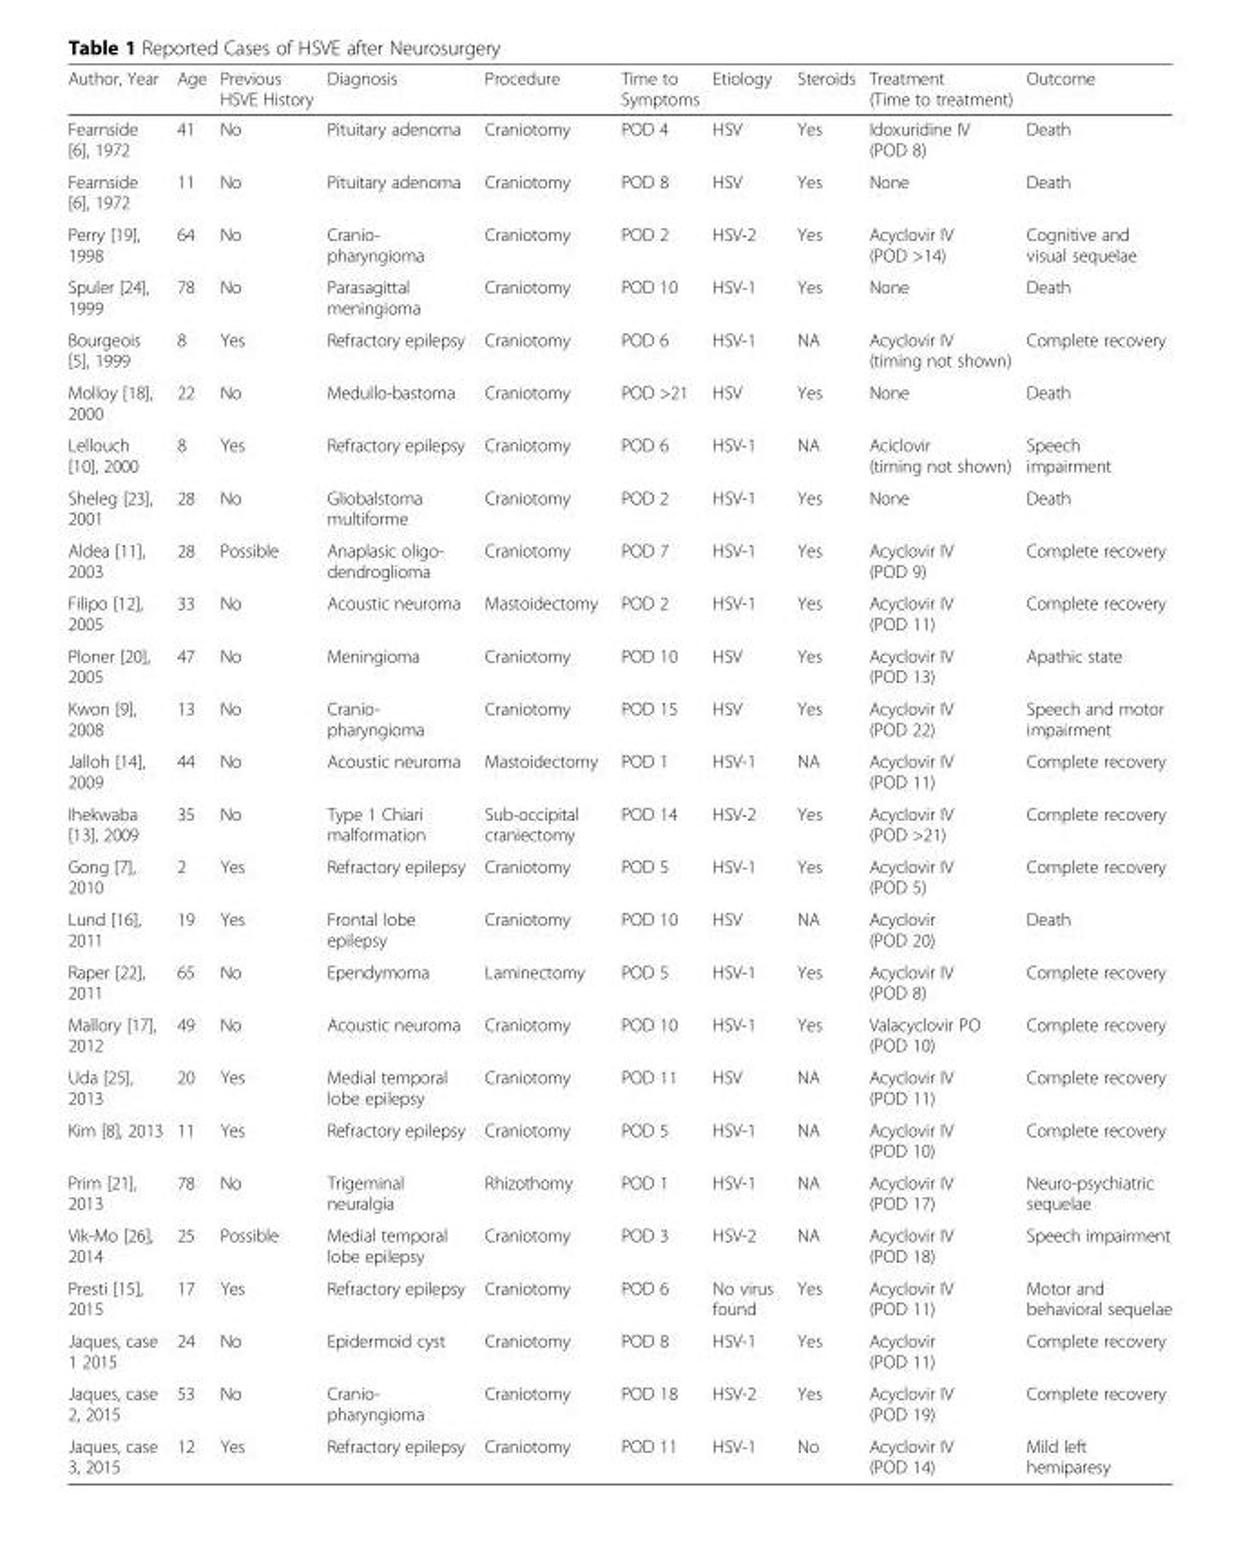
<table><thead><tr><td>Author, Year</td><td>Age</td><td>Previous HSVE History</td><td>Diagnosis</td><td>Procedure</td><td>Time to Symptoms</td><td>Etiology</td><td>Steroids</td><td>Treatment (Time to treatment)</td><td>Outcome</td></tr></thead><tbody><tr><td>Fearnside [6], 1972</td><td>41</td><td>No</td><td>Pituitary adenoma</td><td>Craniotomy</td><td>POD 4</td><td>HSV</td><td>Yes</td><td>Idoxuridine IV (POD 8)</td><td>Death</td></tr><tr><td>Fearnside [6], 1972</td><td>11</td><td>No</td><td>Pituitary adenoma</td><td>Craniotomy</td><td>POD 8</td><td>HSV</td><td>Yes</td><td>None</td><td>Death</td></tr><tr><td>Perry [19], 1998</td><td>64</td><td>No</td><td>Cranio- pharyngioma</td><td>Craniotomy</td><td>POD 2</td><td>HSV-2</td><td>Yes</td><td>Acyclovir IV (POD &gt;14)</td><td>Cognitive and visual sequelae</td></tr><tr><td>Spuler [24], 1999</td><td>78</td><td>No</td><td>Parasagittal meningioma</td><td>Craniotomy</td><td>POD 10</td><td>HSV-1</td><td>Yes</td><td>None</td><td>Death</td></tr><tr><td>Bourgeois [5], 1999</td><td>8</td><td>Yes</td><td>Refractory epilepsy</td><td>Craniotomy</td><td>POD 6</td><td>HSV-1</td><td>NA</td><td>Acyclovir IV (timing not shown)</td><td>Complete recovery</td></tr><tr><td>Molloy [18], 2000</td><td>22</td><td>No</td><td>Medullo-bastoma</td><td>Craniotomy</td><td>POD &gt;21</td><td>HSV</td><td>Yes</td><td>None</td><td>Death</td></tr><tr><td>Lellouch [10], 2000</td><td>8</td><td>Yes</td><td>Refractory epilepsy</td><td>Craniotomy</td><td>POD 6</td><td>HSV-1</td><td>NA</td><td>Aciclovir (timing not shown)</td><td>Speech impairment</td></tr><tr><td>Sheleg [23], 2001</td><td>28</td><td>No</td><td>Gliobalstoma multiforme</td><td>Craniotomy</td><td>POD 2</td><td>HSV-1</td><td>Yes</td><td>None</td><td>Death</td></tr><tr><td>Aldea [11], 2003</td><td>28</td><td>Possible</td><td>Anaplasic oligo- dendroglioma</td><td>Craniotomy</td><td>POD 7</td><td>HSV-1</td><td>Yes</td><td>Acyclovir IV (POD 9)</td><td>Complete recovery</td></tr><tr><td>Filipo [12], 2005</td><td>33</td><td>No</td><td>Acoustic neuroma</td><td>Mastoidectomy</td><td>POD 2</td><td>HSV-1</td><td>Yes</td><td>Acyclovir IV (POD 11)</td><td>Complete recovery</td></tr><tr><td>Ploner [20], 2005</td><td>47</td><td>No</td><td>Meningioma</td><td>Craniotomy</td><td>POD 10</td><td>HSV</td><td>Yes</td><td>Acyclovir IV (POD 13)</td><td>Apathic state</td></tr><tr><td>Kwon [9], 2008</td><td>13</td><td>No</td><td>Cranio- pharyngioma</td><td>Craniotomy</td><td>POD 15</td><td>HSV</td><td>Yes</td><td>Acyclovir IV (POD 22)</td><td>Speech and motor impairment</td></tr><tr><td>Jalloh [14], 2009</td><td>44</td><td>No</td><td>Acoustic neuroma</td><td>Mastoidectomy</td><td>POD 1</td><td>HSV-1</td><td>NA</td><td>Acyclovir IV (POD 11)</td><td>Complete recovery</td></tr><tr><td>Ihekwaba [13], 2009</td><td>35</td><td>No</td><td>Type 1 Chiari malformation</td><td>Sub-occipital craniectomy</td><td>POD 14</td><td>HSV-2</td><td>Yes</td><td>Acyclovir IV (POD &gt;21)</td><td>Complete recovery</td></tr><tr><td>Gong [7], 2010</td><td>2</td><td>Yes</td><td>Refractory epilepsy</td><td>Craniotomy</td><td>POD 5</td><td>HSV-1</td><td>Yes</td><td>Acyclovir IV (POD 5)</td><td>Complete recovery</td></tr><tr><td>Lund [16], 2011</td><td>19</td><td>Yes</td><td>Frontal lobe epilepsy</td><td>Craniotomy</td><td>POD 10</td><td>HSV</td><td>NA</td><td>Acyclovir (POD 20)</td><td>Death</td></tr><tr><td>Raper [22], 2011</td><td>65</td><td>No</td><td>Ependymoma</td><td>Laminectomy</td><td>POD 5</td><td>HSV-1</td><td>Yes</td><td>Acyclovir IV (POD 8)</td><td>Complete recovery</td></tr><tr><td>Mallory [17], 2012</td><td>49</td><td>No</td><td>Acoustic neuroma</td><td>Craniotomy</td><td>POD 10</td><td>HSV-1</td><td>Yes</td><td>Valacyclovir PO (POD 10)</td><td>Complete recovery</td></tr><tr><td>Uda [25], 2013</td><td>20</td><td>Yes</td><td>Medial temporal lobe epilepsy</td><td>Craniotomy</td><td>POD 11</td><td>HSV</td><td>NA</td><td>Acyclovir IV (POD 11)</td><td>Complete recovery</td></tr><tr><td>Kim [8], 2013</td><td>11</td><td>Yes</td><td>Refractory epilepsy</td><td>Craniotomy</td><td>POD 5</td><td>HSV-1</td><td>NA</td><td>Acyclovir IV (POD 10)</td><td>Complete recovery</td></tr><tr><td>Prim [21], 2013</td><td>78</td><td>No</td><td>Trigeminal neuralgia</td><td>Rhizothomy</td><td>POD 1</td><td>HSV-1</td><td>NA</td><td>Acyclovir IV (POD 17)</td><td>Neuro-psychiatric sequelae</td></tr><tr><td>Vik-Mo [26], 2014</td><td>25</td><td>Possible</td><td>Medial temporal lobe epilepsy</td><td>Craniotomy</td><td>POD 3</td><td>HSV-2</td><td>NA</td><td>Acyclovir IV (POD 18)</td><td>Speech impairment</td></tr><tr><td>Presti [15], 2015</td><td>17</td><td>Yes</td><td>Refractory epilepsy</td><td>Craniotomy</td><td>POD 6</td><td>No virus found</td><td>Yes</td><td>Acyclovir IV (POD 11)</td><td>Motor and behavioral sequelae</td></tr><tr><td>Jaques, case 1 2015</td><td>24</td><td>No</td><td>Epidermoid cyst</td><td>Craniotomy</td><td>POD 8</td><td>HSV-1</td><td>Yes</td><td>Acyclovir (POD 11)</td><td>Complete recovery</td></tr><tr><td>Jaques, case 2, 2015</td><td>53</td><td>No</td><td>Cranio- pharyngioma</td><td>Craniotomy</td><td>POD 18</td><td>HSV-2</td><td>Yes</td><td>Acyclovir IV (POD 19)</td><td>Complete recovery</td></tr><tr><td>Jaques, case 3, 2015</td><td>12</td><td>Yes</td><td>Refractory epilepsy</td><td>Craniotomy</td><td>POD 11</td><td>HSV-1</td><td>No</td><td>Acyclovir IV (POD 14)</td><td>Mild left hemiparesy</td></tr></tbody></table>